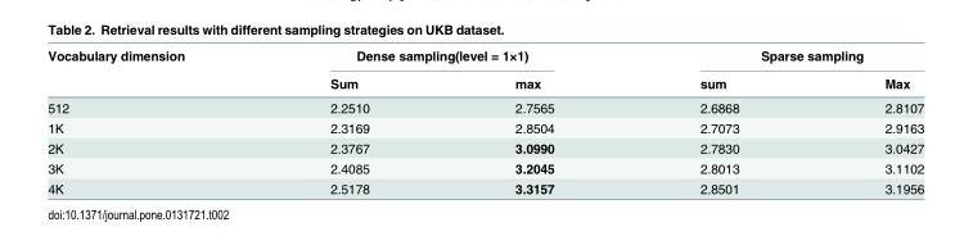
<table><thead><tr><td rowspan="2">Vocabulary dimension</td><td colspan="2">Dense sampling(level = 1×1)</td><td colspan="2">Sparse sampling</td></tr><tr><td>Sum</td><td>max</td><td>sum</td><td>Max</td></tr></thead><tbody><tr><td>512</td><td>2.2510</td><td>2.7565</td><td>2.6868</td><td>2.8107</td></tr><tr><td>1K</td><td>2.3169</td><td>2.8504</td><td>2.7073</td><td>2.9163</td></tr><tr><td>2K</td><td>2.3767</td><td>3.0990</td><td>2.7830</td><td>3.0427</td></tr><tr><td>3K</td><td>2.4085</td><td>3.2045</td><td>2.8013</td><td>3.1102</td></tr><tr><td>4K</td><td>2.5178</td><td>3.3157</td><td>2.8501</td><td>3.1956</td></tr></tbody></table>